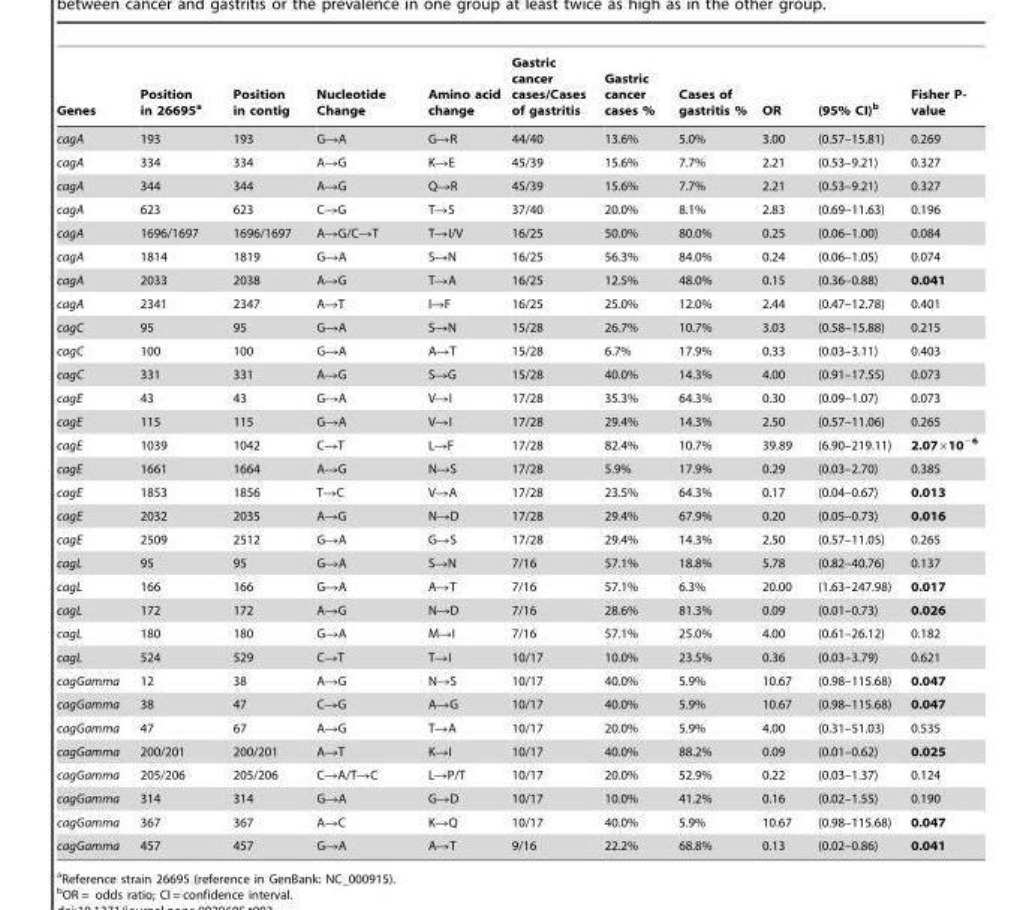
<table><thead><tr><td>Genes</td><td>Position in 26695<sup>a</sup></td><td>Position in contig</td><td>Nucleotide Change</td><td>Amino acid change</td><td>Gastric cancer cases/Cases of gastritis</td><td>Gastric cancer cases %</td><td>Cases of gastritis %</td><td>OR</td><td>(95% CI)<sup>b</sup></td><td>Fisher P- value</td></tr></thead><tbody><tr><td>cagA</td><td>193</td><td>193</td><td>G→A</td><td>G→R</td><td>44/40</td><td>13.6%</td><td>5.0%</td><td>3.00</td><td>(0.57–15.81)</td><td>0.269</td></tr><tr><td>cagA</td><td>334</td><td>334</td><td>A→G</td><td>K→E</td><td>45/39</td><td>15.6%</td><td>7.7%</td><td>2.21</td><td>(0.53–9.21)</td><td>0.327</td></tr><tr><td>cagA</td><td>344</td><td>344</td><td>A→G</td><td>Q→R</td><td>45/39</td><td>15.6%</td><td>7.7%</td><td>2.21</td><td>(0.53–9.21)</td><td>0.327</td></tr><tr><td>cagA</td><td>623</td><td>623</td><td>C→G</td><td>T→S</td><td>37/40</td><td>20.0%</td><td>8.1%</td><td>2.83</td><td>(0.69–11.63)</td><td>0.196</td></tr><tr><td>cagA</td><td>1696/1697</td><td>1696/1697</td><td>A→G/C→T</td><td>T→I/V</td><td>16/25</td><td>50.0%</td><td>80.0%</td><td>0.25</td><td>(0.06–1.00)</td><td>0.084</td></tr><tr><td>cagA</td><td>1814</td><td>1819</td><td>G→A</td><td>S→N</td><td>16/25</td><td>56.3%</td><td>84.0%</td><td>0.24</td><td>(0.06–1.05)</td><td>0.074</td></tr><tr><td>cagA</td><td>2033</td><td>2038</td><td>A→G</td><td>T→A</td><td>16/25</td><td>12.5%</td><td>48.0%</td><td>0.15</td><td>(0.36–0.88)</td><td>0.041</td></tr><tr><td>cagA</td><td>2341</td><td>2347</td><td>A→T</td><td>I→F</td><td>16/25</td><td>25.0%</td><td>12.0%</td><td>2.44</td><td>(0.47–12.78)</td><td>0.401</td></tr><tr><td>cagC</td><td>95</td><td>95</td><td>G→A</td><td>S→N</td><td>15/28</td><td>26.7%</td><td>10.7%</td><td>3.03</td><td>(0.58–15.88)</td><td>0.215</td></tr><tr><td>cagC</td><td>100</td><td>100</td><td>G→A</td><td>A→T</td><td>15/28</td><td>6.7%</td><td>17.9%</td><td>0.33</td><td>(0.03–3.11)</td><td>0.403</td></tr><tr><td>cagC</td><td>331</td><td>331</td><td>A→G</td><td>S→G</td><td>15/28</td><td>40.0%</td><td>14.3%</td><td>4.00</td><td>(0.91–17.55)</td><td>0.073</td></tr><tr><td>cagE</td><td>43</td><td>43</td><td>G→A</td><td>V→I</td><td>17/28</td><td>35.3%</td><td>64.3%</td><td>0.30</td><td>(0.09–1.07)</td><td>0.073</td></tr><tr><td>cagE</td><td>115</td><td>115</td><td>G→A</td><td>V→I</td><td>17/28</td><td>29.4%</td><td>14.3%</td><td>2.50</td><td>(0.57–11.06)</td><td>0.265</td></tr><tr><td>cagE</td><td>1039</td><td>1042</td><td>C→T</td><td>L→F</td><td>17/28</td><td>82.4%</td><td>10.7%</td><td>39.89</td><td>(6.90–219.11)</td><td>2.07×10<sup>−6</sup></td></tr><tr><td>cagE</td><td>1661</td><td>1664</td><td>A→G</td><td>N→S</td><td>17/28</td><td>5.9%</td><td>17.9%</td><td>0.29</td><td>(0.03–2.70)</td><td>0.385</td></tr><tr><td>cagE</td><td>1853</td><td>1856</td><td>T→C</td><td>V→A</td><td>17/28</td><td>23.5%</td><td>64.3%</td><td>0.17</td><td>(0.04–0.67)</td><td>0.013</td></tr><tr><td>cagE</td><td>2032</td><td>2035</td><td>A→G</td><td>N→D</td><td>17/28</td><td>29.4%</td><td>67.9%</td><td>0.20</td><td>(0.05–0.73)</td><td>0.016</td></tr><tr><td>cagE</td><td>2509</td><td>2512</td><td>G→A</td><td>G→S</td><td>17/28</td><td>29.4%</td><td>14.3%</td><td>2.50</td><td>(0.57–11.05)</td><td>0.265</td></tr><tr><td>cagL</td><td>95</td><td>95</td><td>G→A</td><td>S→N</td><td>7/16</td><td>57.1%</td><td>18.8%</td><td>5.78</td><td>(0.82–40.76)</td><td>0.137</td></tr><tr><td>cagL</td><td>166</td><td>166</td><td>G→A</td><td>A→T</td><td>7/16</td><td>57.1%</td><td>6.3%</td><td>20.00</td><td>(1.63–247.98)</td><td>0.017</td></tr><tr><td>cagL</td><td>172</td><td>172</td><td>A→G</td><td>N→D</td><td>7/16</td><td>28.6%</td><td>81.3%</td><td>0.09</td><td>(0.01–0.73)</td><td>0.026</td></tr><tr><td>cagL</td><td>180</td><td>180</td><td>G→A</td><td>M→I</td><td>7/16</td><td>57.1%</td><td>25.0%</td><td>4.00</td><td>(0.61–26.12)</td><td>0.182</td></tr><tr><td>cagL</td><td>524</td><td>529</td><td>C→T</td><td>T→I</td><td>10/17</td><td>10.0%</td><td>23.5%</td><td>0.36</td><td>(0.03–3.79)</td><td>0.621</td></tr><tr><td>cagGamma</td><td>12</td><td>38</td><td>A→G</td><td>N→S</td><td>10/17</td><td>40.0%</td><td>5.9%</td><td>10.67</td><td>(0.98–115.68)</td><td>0.047</td></tr><tr><td>cagGamma</td><td>38</td><td>47</td><td>C→G</td><td>A→G</td><td>10/17</td><td>40.0%</td><td>5.9%</td><td>10.67</td><td>(0.98–115.68)</td><td>0.047</td></tr><tr><td>cagGamma</td><td>47</td><td>67</td><td>A→G</td><td>T→A</td><td>10/17</td><td>20.0%</td><td>5.9%</td><td>4.00</td><td>(0.31–51.03)</td><td>0.535</td></tr><tr><td>cagGamma</td><td>200/201</td><td>200/201</td><td>A→T</td><td>K→I</td><td>10/17</td><td>40.0%</td><td>88.2%</td><td>0.09</td><td>(0.01–0.62)</td><td>0.025</td></tr><tr><td>cagGamma</td><td>205/206</td><td>205/206</td><td>C→A/T→C</td><td>L→P/T</td><td>10/17</td><td>20.0%</td><td>52.9%</td><td>0.22</td><td>(0.03–1.37)</td><td>0.124</td></tr><tr><td>cagGamma</td><td>314</td><td>314</td><td>G→A</td><td>G→D</td><td>10/17</td><td>10.0%</td><td>41.2%</td><td>0.16</td><td>(0.02–1.55)</td><td>0.190</td></tr><tr><td>cagGamma</td><td>367</td><td>367</td><td>A→C</td><td>K→Q</td><td>10/17</td><td>40.0%</td><td>5.9%</td><td>10.67</td><td>(0.98–115.68)</td><td>0.047</td></tr><tr><td>cagGamma</td><td>457</td><td>457</td><td>G→A</td><td>A→T</td><td>9/16</td><td>22.2%</td><td>68.8%</td><td>0.13</td><td>(0.02–0.86)</td><td>0.041</td></tr></tbody></table>